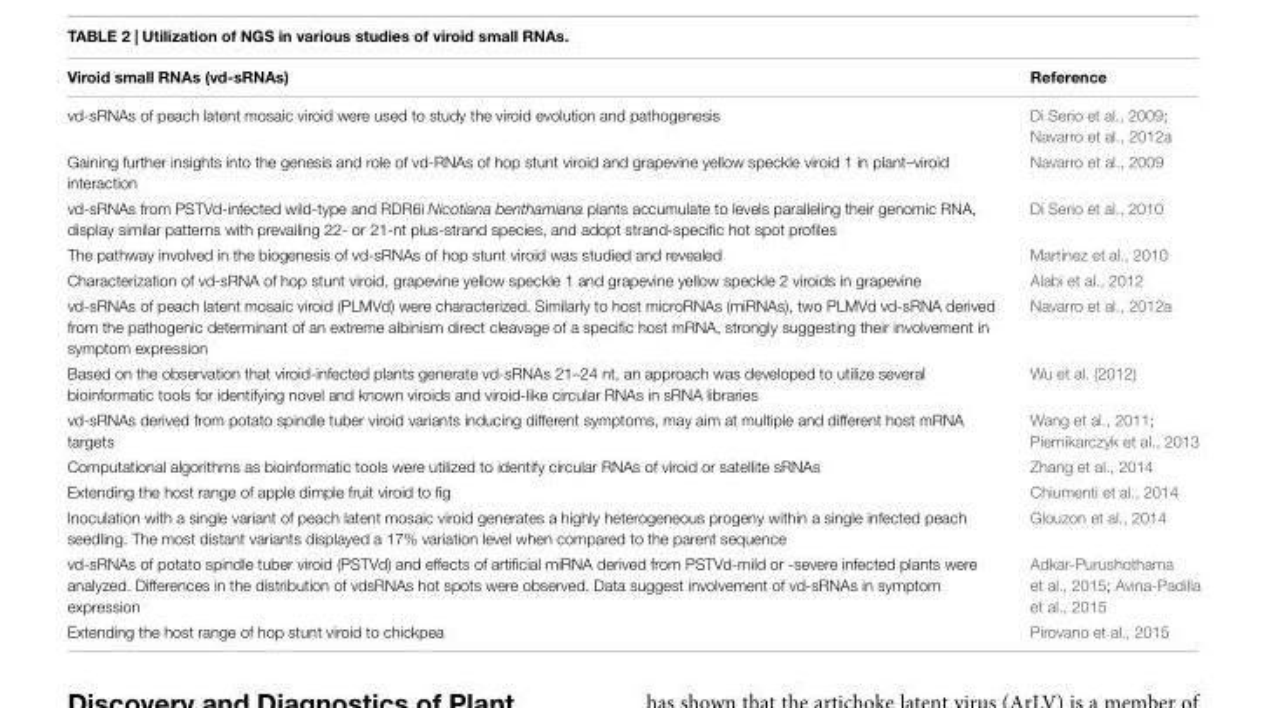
<table><thead><tr><td>Viroid small RNAs (vd-sRNAs)</td><td>Reference</td></tr></thead><tbody><tr><td>vd-sRNAs of peach latent mosaic viroid were used to study the viroid evolution and pathogenesis</td><td>Di Serio et al., 2009; Navarro et al., 2012a</td></tr><tr><td>Gaining further insights into the genesis and role of vd-RNAs of hop stunt viroid and grapevine yellow speckle viroid 1 in plant–viroid interaction</td><td>Navarro et al., 2009</td></tr><tr><td>vd-sRNAs from PSTVd-infected wild-type and RDR6i Nicotiana benthamiana plants accumulate to levels paralleling their genomic RNA, display similar patterns with prevailing 22- or 21-nt plus-strand species, and adopt strand-specific hot spot profiles</td><td>Di Serio et al., 2010</td></tr><tr><td>The pathway involved in the biogenesis of vd-sRNAs of hop stunt viroid was studied and revealed</td><td>Martinez et al., 2010</td></tr><tr><td>Characterization of vd-sRNA of hop stunt viroid, grapevine yellow speckle 1 and grapevine yellow speckle 2 viroids in grapevine</td><td>Alabi et al., 2012</td></tr><tr><td>vd-sRNAs of peach latent mosaic viroid (PLMVd) were characterized. Similarly to host microRNAs (miRNAs), two PLMVd vd-sRNA derived from the pathogenic determinant of an extreme albinism direct cleavage of a specific host mRNA, strongly suggesting their involvement in symptom expression</td><td>Navarro et al., 2012a</td></tr><tr><td>Based on the observation that viroid-infected plants generate vd-sRNAs 21–24 nt, an approach was developed to utilize several bioinformatic tools for identifying novel and known viroids and viroid-like circular RNAs in sRNA libraries</td><td>Wu et al. (2012)</td></tr><tr><td>vd-sRNAs derived from potato spindle tuber viroid variants inducing different symptoms, may aim at multiple and different host mRNA targets</td><td>Wang et al., 2011; Piernikarczyk et al., 2013</td></tr><tr><td>Computational algorithms as bioinformatic tools were utilized to identify circular RNAs of viroid or satellite sRNAs</td><td>Zhang et al., 2014</td></tr><tr><td>Extending the host range of apple dimple fruit viroid to fig</td><td>Chiumenti et al., 2014</td></tr><tr><td>Inoculation with a single variant of peach latent mosaic viroid generates a highly heterogeneous progeny within a single infected peach seedling. The most distant variants displayed a 17% variation level when compared to the parent sequence</td><td>Glouzon et al., 2014</td></tr><tr><td>vd-sRNAs of potato spindle tuber viroid (PSTVd) and effects of artificial miRNA derived from PSTVd-mild or -severe infected plants were analyzed. Differences in the distribution of vdsRNAs hot spots were observed. Data suggest involvement of vd-sRNAs in symptom expression</td><td>Adkar-Purushothama et al., 2015; Avina-Padilla et al., 2015</td></tr><tr><td>Extending the host range of hop stunt viroid to chickpea</td><td>Pirovano et al., 2015</td></tr></tbody></table>